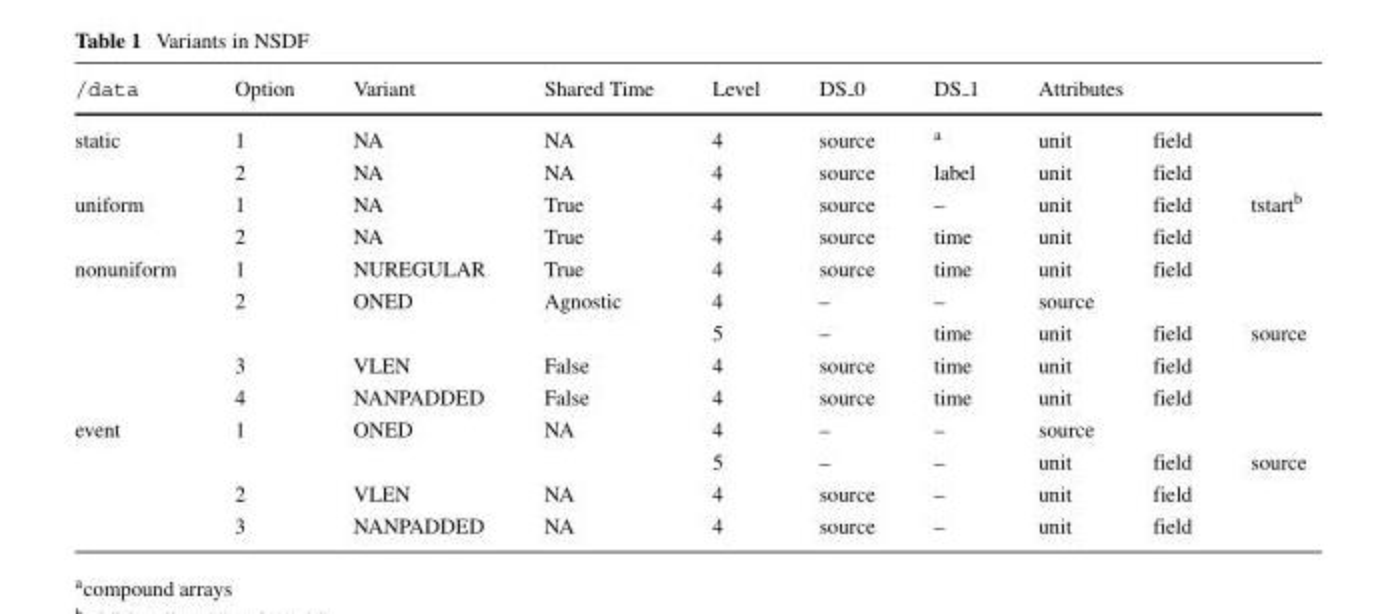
<table><thead><tr><td rowspan="2">/data static</td><td rowspan="2">Option 1</td><td rowspan="2">Variant NA</td><td rowspan="2">Shared Time NA</td><td rowspan="2">Level 4</td><td rowspan="2">DS 0 source</td><td rowspan="2">DS 1 a</td><td colspan="3">Attributes</td></tr><tr><td>unit</td><td>field</td><td></td></tr></thead><tbody><tr><td></td><td>2</td><td>NA</td><td>NA</td><td>4</td><td>source</td><td>label</td><td>unit</td><td>field</td><td></td></tr><tr><td rowspan="2">uniform</td><td>1</td><td>NA</td><td>True</td><td>4</td><td>source</td><td>–</td><td>unit</td><td>field</td><td>tstart<sup>b</sup></td></tr><tr><td>2</td><td>NA</td><td>True</td><td>4</td><td>source</td><td>time</td><td>unit</td><td>field</td><td></td></tr><tr><td rowspan="5">nonuniform</td><td>1</td><td>NUREGULAR</td><td>True</td><td>4</td><td>source</td><td>time</td><td>unit</td><td>field</td><td></td></tr><tr><td>2</td><td>ONED</td><td>Agnostic</td><td>4</td><td>–</td><td>–</td><td>source</td><td></td><td></td></tr><tr><td></td><td></td><td></td><td>5</td><td>–</td><td>time</td><td>unit</td><td>field</td><td>source</td></tr><tr><td>3</td><td>VLEN</td><td>False</td><td>4</td><td>source</td><td>time</td><td>unit</td><td>field</td><td></td></tr><tr><td>4</td><td>NANPADDED</td><td>False</td><td>4</td><td>source</td><td>time</td><td>unit</td><td>field</td><td></td></tr><tr><td rowspan="4">event</td><td>1</td><td>ONED</td><td>NA</td><td>4</td><td>–</td><td>–</td><td>source</td><td></td><td></td></tr><tr><td></td><td></td><td></td><td>5</td><td>–</td><td>–</td><td>unit</td><td>field</td><td>source</td></tr><tr><td>2</td><td>VLEN</td><td>NA</td><td>4</td><td>source</td><td>–</td><td>unit</td><td>field</td><td></td></tr><tr><td>3</td><td>NANPADDED</td><td>NA</td><td>4</td><td>source</td><td>–</td><td>unit</td><td>field</td><td></td></tr></tbody></table>